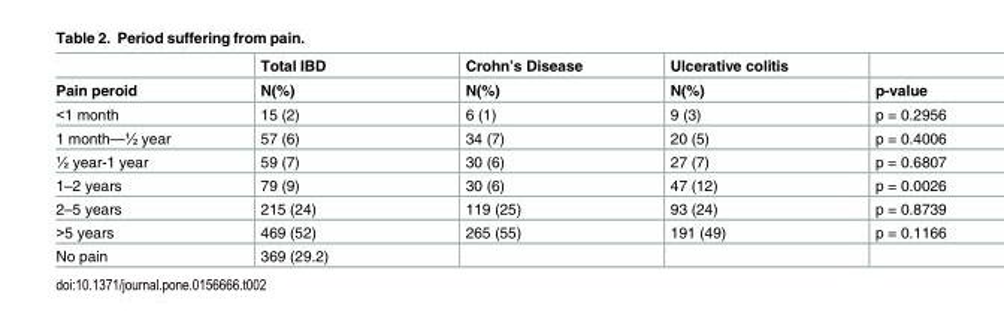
<table><thead><tr><td rowspan="2">Pain peroid</td><td rowspan="2">Total IBD N(%)</td><td rowspan="2">Crohn’s Disease N(%)</td><td rowspan="2">Ulcerative colitis N(%)</td><td rowspan="2">p-value</td></tr><tr></tr></thead><tbody><tr><td>&lt;1 month</td><td>15 (2)</td><td>6 (1)</td><td>9 (3)</td><td>p = 0.2956</td></tr><tr><td>1 month—½ year</td><td>57 (6)</td><td>34 (7)</td><td>20 (5)</td><td>p = 0.4006</td></tr><tr><td>½ year-1 year</td><td>59 (7)</td><td>30 (6)</td><td>27 (7)</td><td>p = 0.6807</td></tr><tr><td>1–2 years</td><td>79 (9)</td><td>30 (6)</td><td>47 (12)</td><td>p = 0.0026</td></tr><tr><td>2–5 years</td><td>215 (24)</td><td>119 (25)</td><td>93 (24)</td><td>p = 0.8739</td></tr><tr><td>&gt;5 years</td><td>469 (52)</td><td>265 (55)</td><td>191 (49)</td><td>p = 0.1166</td></tr><tr><td>No pain</td><td>369 (29.2)</td><td></td><td></td><td></td></tr></tbody></table>